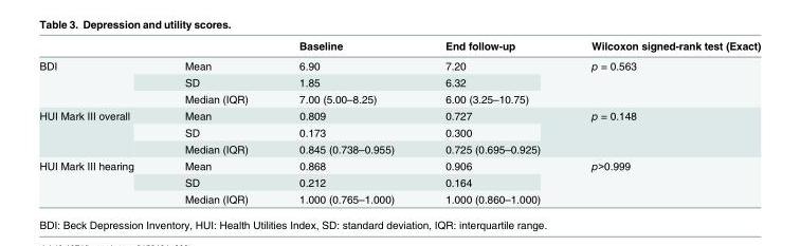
<table><thead><tr><td></td><td></td><td>Baseline</td><td>End follow-up</td><td>Wilcoxon signed-rank test (Exact)</td></tr></thead><tbody><tr><td rowspan="3">BDI</td><td>Mean</td><td>6.90</td><td>7.20</td><td rowspan="3">p = 0.563</td></tr><tr><td>SD</td><td>1.85</td><td>6.32</td></tr><tr><td>Median (IQR)</td><td>7.00 (5.00–8.25)</td><td>6.00 (3.25–10.75)</td></tr><tr><td rowspan="3">HUI Mark III overall</td><td>Mean</td><td>0.809</td><td>0.727</td><td rowspan="3">p = 0.148</td></tr><tr><td>SD</td><td>0.173</td><td>0.300</td></tr><tr><td>Median (IQR)</td><td>0.845 (0.738–0.955)</td><td>0.725 (0.695–0.925)</td></tr><tr><td rowspan="3">HUI Mark III hearing</td><td>Mean</td><td>0.868</td><td>0.906</td><td rowspan="3">p&gt;0.999</td></tr><tr><td>SD</td><td>0.212</td><td>0.164</td></tr><tr><td>Median (IQR)</td><td>1.000 (0.765–1.000)</td><td>1.000 (0.860–1.000)</td></tr></tbody></table>